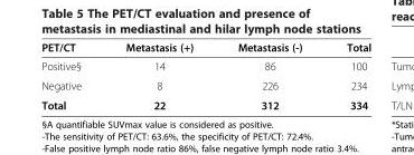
<table><thead><tr><td>PET/CT</td><td>Metastasis (+)</td><td>Metastasis (-)</td><td>Total</td></tr></thead><tbody><tr><td>Positive§</td><td>14</td><td>86</td><td>100</td></tr><tr><td>Negative</td><td>8</td><td>226</td><td>234</td></tr><tr><td>Total</td><td>22</td><td>312</td><td>334</td></tr></tbody></table>